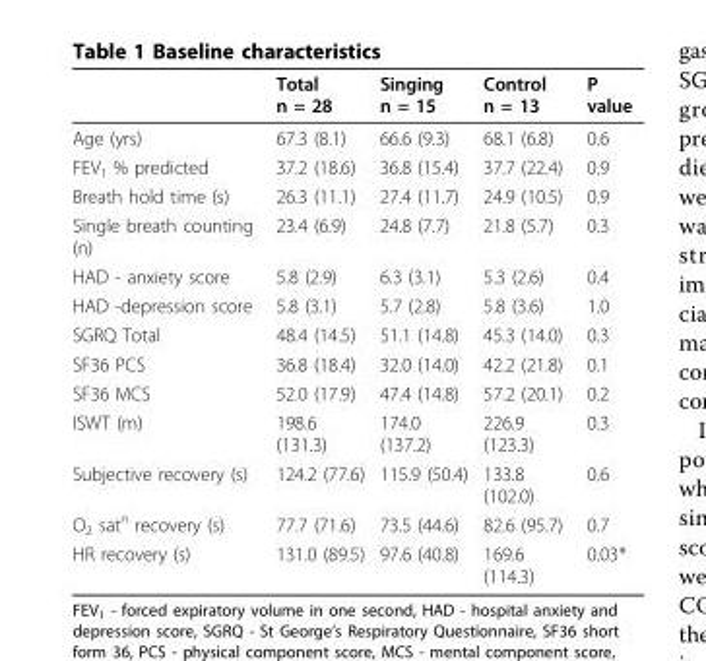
<table><thead><tr><td></td><td>Total n = 28</td><td>Singing n = 15</td><td>Control n = 13</td><td>P value</td></tr></thead><tbody><tr><td>Age (yrs)</td><td>67.3 (8.1)</td><td>66.6 (9.3)</td><td>68.1 (6.8)</td><td>0.6</td></tr><tr><td>FEV<sub>1</sub> % predicted</td><td>37.2 (18.6)</td><td>36.8 (15.4)</td><td>37.7 (22.4)</td><td>0.9</td></tr><tr><td>Breath hold time (s)</td><td>26.3 (11.1)</td><td>27.4 (11.7)</td><td>24.9 (10.5)</td><td>0.9</td></tr><tr><td>Single breath counting (n)</td><td>23.4 (6.9)</td><td>24.8 (7.7)</td><td>21.8 (5.7)</td><td>0.3</td></tr><tr><td>HAD - anxiety score</td><td>5.8 (2.9)</td><td>6.3 (3.1)</td><td>5.3 (2.6)</td><td>0.4</td></tr><tr><td>HAD -depression score</td><td>5.8 (3.1)</td><td>5.7 (2.8)</td><td>5.8 (3.6)</td><td>1.0</td></tr><tr><td>SGRQ Total</td><td>48.4 (14.5)</td><td>51.1 (14.8)</td><td>45.3 (14.0)</td><td>0.3</td></tr><tr><td>SF36 PCS</td><td>36.8 (18.4)</td><td>32.0 (14.0)</td><td>42.2 (21.8)</td><td>0.1</td></tr><tr><td>SF36 MCS</td><td>52.0 (17.9)</td><td>47.4 (14.8)</td><td>57.2 (20.1)</td><td>0.2</td></tr><tr><td>ISWT (m)</td><td>198.6 (131.3)</td><td>174.0 (137.2)</td><td>226.9 (123.3)</td><td>0.3</td></tr><tr><td>Subjective recovery (s)</td><td>124.2 (77.6)</td><td>115.9 (50.4)</td><td>133.8 (102.0)</td><td>0.6</td></tr><tr><td>O<sub>2</sub> sat<sup>n</sup> recovery (s)</td><td>77.7 (71.6)</td><td>73.5 (44.6)</td><td>82.6 (95.7)</td><td>0.7</td></tr><tr><td>HR recovery (s)</td><td>131.0 (89.5)</td><td>97.6 (40.8)</td><td>169.6 (114.3)</td><td>0.03*</td></tr></tbody></table>